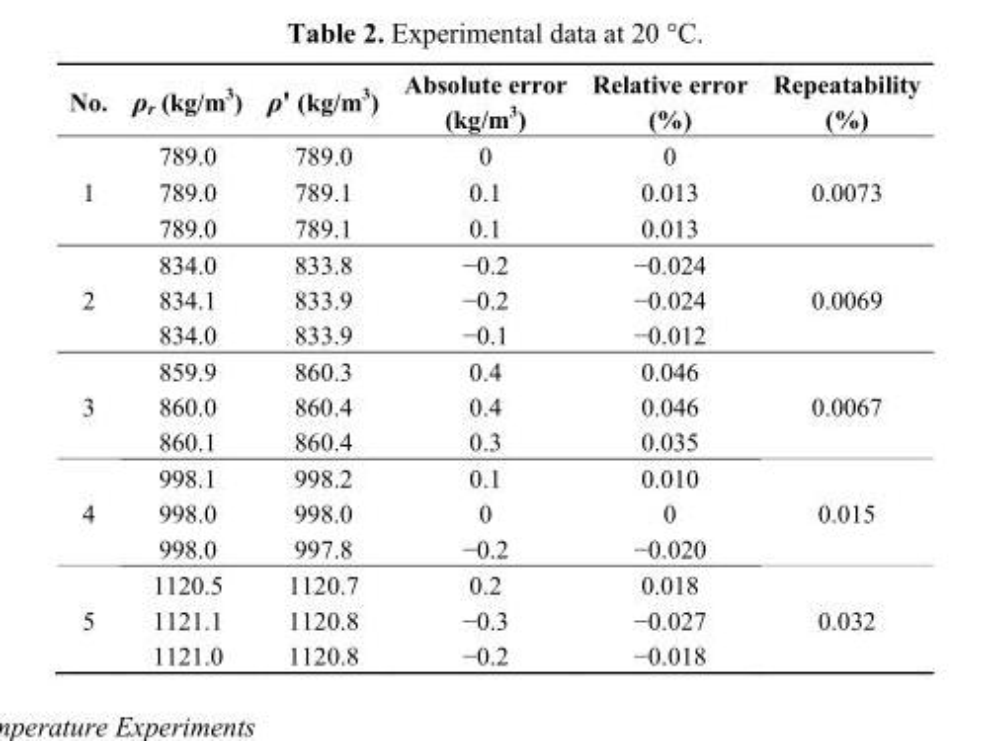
<table><thead><tr><td>No.</td><td>ρ<sub>r</sub> (kg/m<sup>3</sup>)</td><td>ρ&#x27; (kg/m<sup>3</sup>)</td><td>Absolute error (kg/m<sup>3</sup>)</td><td>Relative error (%)</td><td>Repeatability (%)</td></tr></thead><tbody><tr><td rowspan="3">1</td><td>789.0</td><td>789.0</td><td>0</td><td>0</td><td rowspan="3">0.0073</td></tr><tr><td>789.0</td><td>789.1</td><td>0.1</td><td>0.013</td></tr><tr><td>789.0</td><td>789.1</td><td>0.1</td><td>0.013</td></tr><tr><td rowspan="3">2</td><td>834.0</td><td>833.8</td><td>−0.2</td><td>−0.024</td><td></td></tr><tr><td>834.1</td><td>833.9</td><td>−0.2</td><td>−0.024</td><td>0.0069</td></tr><tr><td>834.0</td><td>833.9</td><td>−0.1</td><td>−0.012</td><td></td></tr><tr><td rowspan="3">3</td><td>859.9</td><td>860.3</td><td>0.4</td><td>0.046</td><td></td></tr><tr><td>860.0</td><td>860.4</td><td>0.4</td><td>0.046</td><td>0.0067</td></tr><tr><td>860.1</td><td>860.4</td><td>0.3</td><td>0.035</td><td></td></tr><tr><td rowspan="3">4</td><td>998.1</td><td>998.2</td><td>0.1</td><td>0.010</td><td></td></tr><tr><td>998.0</td><td>998.0</td><td>0</td><td>0</td><td>0.015</td></tr><tr><td>998.0</td><td>997.8</td><td>−0.2</td><td>−0.020</td><td></td></tr><tr><td rowspan="3">5</td><td>1120.5</td><td>1120.7</td><td>0.2</td><td>0.018</td><td></td></tr><tr><td>1121.1</td><td>1120.8</td><td>−0.3</td><td>−0.027</td><td>0.032</td></tr><tr><td>1121.0</td><td>1120.8</td><td>−0.2</td><td>−0.018</td><td></td></tr></tbody></table>